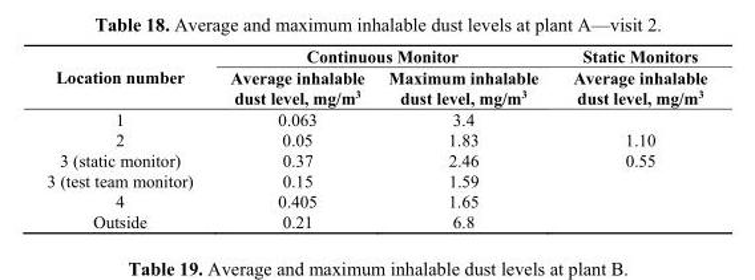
<table><thead><tr><td rowspan="2">Location number</td><td colspan="2">Continuous Monitor</td><td rowspan="2">Static Monitors Average inhalable dust level, mg/m<sup>3</sup></td></tr><tr><td>Average inhalable dust level, mg/m<sup>3</sup></td><td>Maximum inhalable dust level, mg/m<sup>3</sup></td></tr></thead><tbody><tr><td>1</td><td>0.063</td><td>3.4</td><td></td></tr><tr><td>2</td><td>0.05</td><td>1.83</td><td>1.10</td></tr><tr><td>3 (static monitor)</td><td>0.37</td><td>2.46</td><td>0.55</td></tr><tr><td>3 (test team monitor)</td><td>0.15</td><td>1.59</td><td></td></tr><tr><td>4</td><td>0.405</td><td>1.65</td><td></td></tr><tr><td>Outside</td><td>0.21</td><td>6.8</td><td></td></tr></tbody></table>